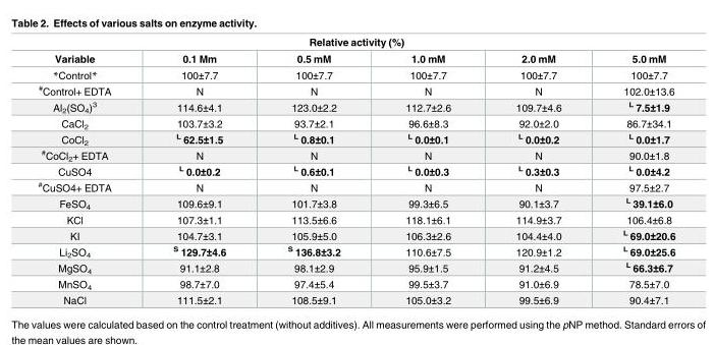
<table><thead><tr><td colspan="6">Relative activity (%)</td></tr><tr><td>Variable</td><td>0.1 Mm</td><td>0.5 mM</td><td>1.0 mM</td><td>2.0 mM</td><td>5.0 mM</td></tr></thead><tbody><tr><td>*Control*</td><td>100±7.7</td><td>100±7.7</td><td>100±7.7</td><td>100±7.7</td><td>100±7.7</td></tr><tr><td><sup>#</sup>Control+ EDTA</td><td>N</td><td>N</td><td>N</td><td>N</td><td>102.0±13.6</td></tr><tr><td>Al<sub>2</sub>(SO<sub>4</sub>)<sup>3</sup></td><td>114.6±4.1</td><td>123.0±2.2</td><td>112.7±2.6</td><td>109.7±4.6</td><td><sup>L</sup> 7.5±1.9</td></tr><tr><td>CaCl<sub>2</sub></td><td>103.7±3.2</td><td>93.7±2.1</td><td>96.6±8.3</td><td>92.0±2.0</td><td>86.7±34.1</td></tr><tr><td>CoCl<sub>2</sub></td><td><sup>L</sup> 62.5±1.5</td><td><sup>L</sup> 0.8±0.1</td><td><sup>L</sup> 0.0±0.1</td><td><sup>L</sup> 0.0±0.2</td><td><sup>L</sup> 0.0±1.7</td></tr><tr><td><sup>#</sup>CoCl<sub>2</sub>+ EDTA</td><td>N</td><td>N</td><td>N</td><td>N</td><td>90.0±1.8</td></tr><tr><td>CuSO4</td><td><sup>L</sup> 0.0±0.2</td><td><sup>L</sup> 0.6±0.1</td><td><sup>L</sup> 0.0±0.3</td><td><sup>L</sup> 0.3±0.3</td><td><sup>L</sup> 0.0±4.2</td></tr><tr><td><sup>#</sup>CuSO4+ EDTA</td><td>N</td><td>N</td><td>N</td><td>N</td><td>97.5±2.7</td></tr><tr><td>FeSO<sub>4</sub></td><td>109.6±9.1</td><td>101.7±3.8</td><td>99.3±6.5</td><td>90.1±3.7</td><td><sup>L</sup> 39.1±6.0</td></tr><tr><td>KCl</td><td>107.3±1.1</td><td>113.5±6.6</td><td>118.1±6.1</td><td>114.9±3.7</td><td>106.4±6.8</td></tr><tr><td>KI</td><td>104.7±3.1</td><td>105.9±5.0</td><td>106.3±2.6</td><td>104.4±4.0</td><td><sup>L</sup> 69.0±20.6</td></tr><tr><td>Li<sub>2</sub>SO<sub>4</sub></td><td><sup>S</sup> 129.7±4.6</td><td><sup>S</sup> 136.8±3.2</td><td>110.6±7.5</td><td>120.9±1.2</td><td><sup>L</sup> 69.0±25.6</td></tr><tr><td>MgSO<sub>4</sub></td><td>91.1±2.8</td><td>98.1±2.9</td><td>95.9±1.5</td><td>91.2±4.5</td><td><sup>L</sup> 66.3±6.7</td></tr><tr><td>MnSO<sub>4</sub></td><td>98.7±7.0</td><td>97.4±5.4</td><td>99.5±3.7</td><td>91.0±6.9</td><td>78.5±7.0</td></tr><tr><td>NaCl</td><td>111.5±2.1</td><td>108.5±9.1</td><td>105.0±3.2</td><td>99.5±6.9</td><td>90.4±7.1</td></tr></tbody></table>